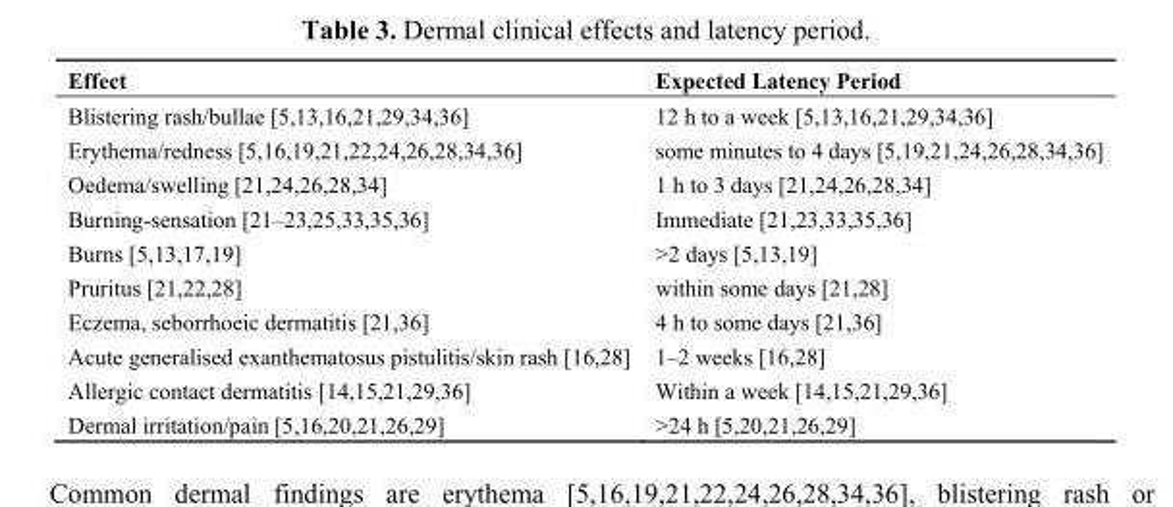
<table><thead><tr><td>Effect</td><td>Expected Latency Period</td></tr></thead><tbody><tr><td>Blistering rash/bullae [5,13,16,21,29,34,36]</td><td>12 h to a week [5,13,16,21,29,34,36]</td></tr><tr><td>Erythema/redness [5,16,19,21,22,24,26,28,34,36]</td><td>some minutes to 4 days [5,19,21,24,26,28,34,36]</td></tr><tr><td>Oedema/swelling [21,24,26,28,34]</td><td>1 h to 3 days [21,24,26,28,34]</td></tr><tr><td>Burning-sensation [21–23,25,33,35,36]</td><td>Immediate [21,23,33,35,36]</td></tr><tr><td>Burns [5,13,17,19]</td><td>&gt;2 days [5,13,19]</td></tr><tr><td>Pruritus [21,22,28]</td><td>within some days [21,28]</td></tr><tr><td>Eczema, seborrhoeic dermatitis [21,36]</td><td>4 h to some days [21,36]</td></tr><tr><td>Acute generalised exanthematosus pistulitis/skin rash [16,28]</td><td>1–2 weeks [16,28]</td></tr><tr><td>Allergic contact dermatitis [14,15,21,29,36]</td><td>Within a week [14,15,21,29,36]</td></tr><tr><td>Dermal irritation/pain [5,16,20,21,26,29]</td><td>&gt;24 h [5,20,21,26,29]</td></tr></tbody></table>